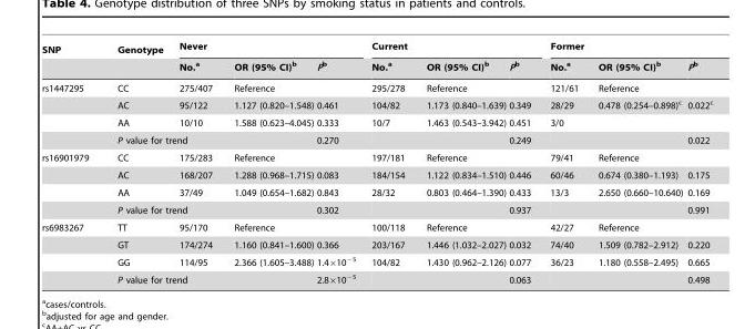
<table><thead><tr><td rowspan="2">SNP</td><td rowspan="2">Genotype</td><td colspan="3">Never</td><td colspan="3">Current</td><td colspan="3">Former</td></tr><tr><td>No.<sup>a</sup></td><td>OR (95% CI)<sup>b</sup></td><td>Pb</td><td>No.<sup>a</sup></td><td>OR (95% CI)<sup>b</sup></td><td>Pb</td><td>No.<sup>a</sup></td><td>OR (95% CI)<sup>b</sup></td><td>Pb</td></tr></thead><tbody><tr><td rowspan="4">rs1447295</td><td>CC</td><td>275/407</td><td>Reference</td><td></td><td>295/278</td><td>Reference</td><td></td><td>121/61</td><td>Reference</td><td></td></tr><tr><td>AC</td><td>95/122</td><td>1.127 (0.820–1.548)</td><td>0.461</td><td>104/82</td><td>1.173 (0.840–1.639)</td><td>0.349</td><td>28/29</td><td>0.478 (0.254–0.898)<sup>c</sup></td><td>0.022<sup>c</sup></td></tr><tr><td>AA</td><td>10/10</td><td>1.588 (0.623–4.045)</td><td>0.333</td><td>10/7</td><td>1.463 (0.543–3.942)</td><td>0.451</td><td>3/0</td><td></td><td></td></tr><tr><td colspan="3">P value for trend</td><td>0.270</td><td></td><td></td><td>0.249</td><td></td><td></td><td>0.022</td></tr><tr><td rowspan="4">rs16901979</td><td>CC</td><td>175/283</td><td>Reference</td><td></td><td>197/181</td><td>Reference</td><td></td><td>79/41</td><td>Reference</td><td></td></tr><tr><td>AC</td><td>168/207</td><td>1.288 (0.968–1.715)</td><td>0.083</td><td>184/154</td><td>1.122 (0.834–1.510)</td><td>0.446</td><td>60/46</td><td>0.674 (0.380–1.193)</td><td>0.175</td></tr><tr><td>AA</td><td>37/49</td><td>1.049 (0.654–1.682)</td><td>0.843</td><td>28/32</td><td>0.803 (0.464–1.390)</td><td>0.433</td><td>13/3</td><td>2.650 (0.660–10.640)</td><td>0.169</td></tr><tr><td colspan="3">P value for trend</td><td>0.302</td><td></td><td></td><td>0.937</td><td></td><td></td><td>0.991</td></tr><tr><td rowspan="4">rs6983267</td><td>TT</td><td>95/170</td><td>Reference</td><td></td><td>100/118</td><td>Reference</td><td></td><td>42/27</td><td>Reference</td><td></td></tr><tr><td>GT</td><td>174/274</td><td>1.160 (0.841–1.600)</td><td>0.366</td><td>203/167</td><td>1.446 (1.032–2.027)</td><td>0.032</td><td>74/40</td><td>1.509 (0.782–2.912)</td><td>0.220</td></tr><tr><td>GG</td><td>114/95</td><td>2.366 (1.605–3.488)</td><td>1.4×10<sup>−5</sup></td><td>104/82</td><td>1.430 (0.962–2.126)</td><td>0.077</td><td>36/23</td><td>1.180 (0.558–2.495)</td><td>0.665</td></tr><tr><td colspan="3">P value for trend</td><td>2.8×10<sup>−5</sup></td><td></td><td></td><td>0.063</td><td></td><td></td><td>0.498</td></tr></tbody></table>